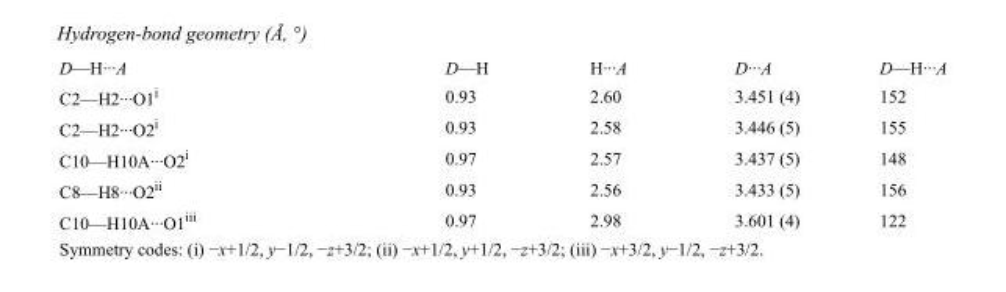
<table><tbody><tr><td>D—H···A</td><td>D—H</td><td>H···A</td><td>D···A</td><td>D—H···A</td></tr><tr><td>C2—H2···O1<sup>i</sup></td><td>0.93</td><td>2.60</td><td>3.451 (4)</td><td>152</td></tr><tr><td>C2—H2···O2<sup>i</sup></td><td>0.93</td><td>2.58</td><td>3.446 (5)</td><td>155</td></tr><tr><td>C10—H10A···O2<sup>i</sup></td><td>0.97</td><td>2.57</td><td>3.437 (5)</td><td>148</td></tr><tr><td>C8—H8···O2<sup>ii</sup></td><td>0.93</td><td>2.56</td><td>3.433 (5)</td><td>156</td></tr><tr><td>C10—H10A···O1<sup>iii</sup></td><td>0.97</td><td>2.98</td><td>3.601 (4)</td><td>122</td></tr></tbody></table>